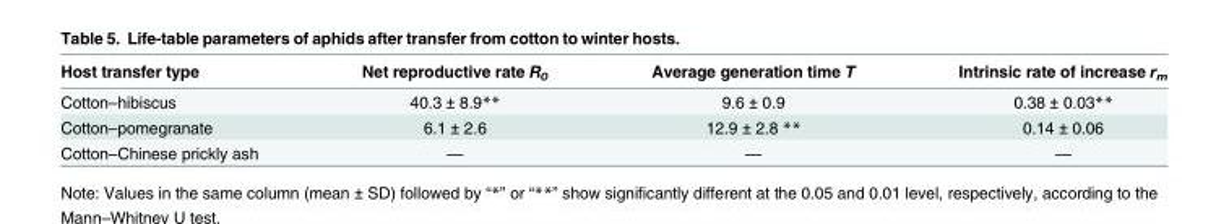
<table><thead><tr><td>Host transfer type</td><td>Net reproductive rate R<sub>0</sub></td><td>Average generation time T</td><td>Intrinsic rate of increase r<sub>m</sub></td></tr></thead><tbody><tr><td>Cotton–hibiscus</td><td>40.3 ± 8.9**</td><td>9.6 ± 0.9</td><td>0.38 ± 0.03**</td></tr><tr><td>Cotton–pomegranate</td><td>6.1 ± 2.6</td><td>12.9 ± 2.8 **</td><td>0.14 ± 0.06</td></tr><tr><td>Cotton–Chinese prickly ash</td><td>—</td><td>—</td><td>—</td></tr></tbody></table>